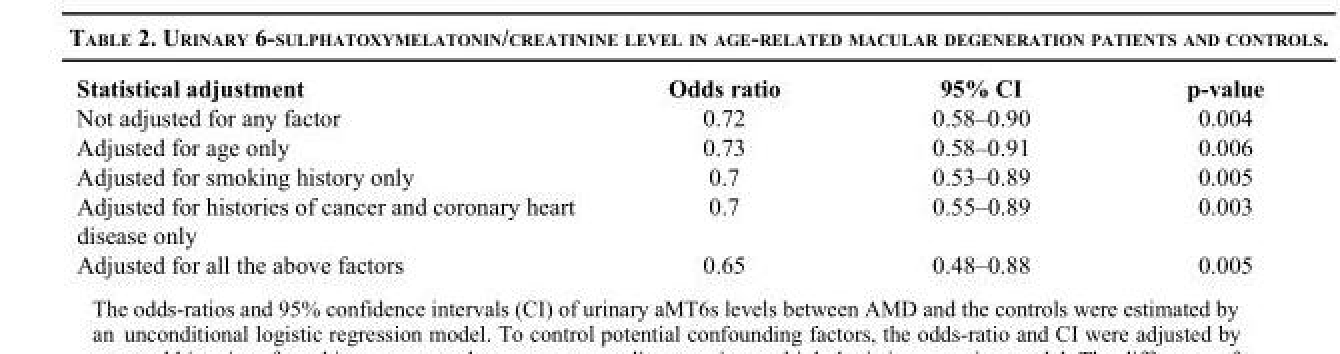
<table><thead><tr><td>Statistical adjustment</td><td>Odds ratio</td><td>95% CI</td><td>p-value</td></tr></thead><tbody><tr><td>Not adjusted for any factor</td><td>0.72</td><td>0.58–0.90</td><td>0.004</td></tr><tr><td>Adjusted for age only</td><td>0.73</td><td>0.58–0.91</td><td>0.006</td></tr><tr><td>Adjusted for smoking history only</td><td>0.7</td><td>0.53–0.89</td><td>0.005</td></tr><tr><td>Adjusted for histories of cancer and coronary heart disease only</td><td>0.7</td><td>0.55–0.89</td><td>0.003</td></tr><tr><td>Adjusted for all the above factors</td><td>0.65</td><td>0.48–0.88</td><td>0.005</td></tr></tbody></table>